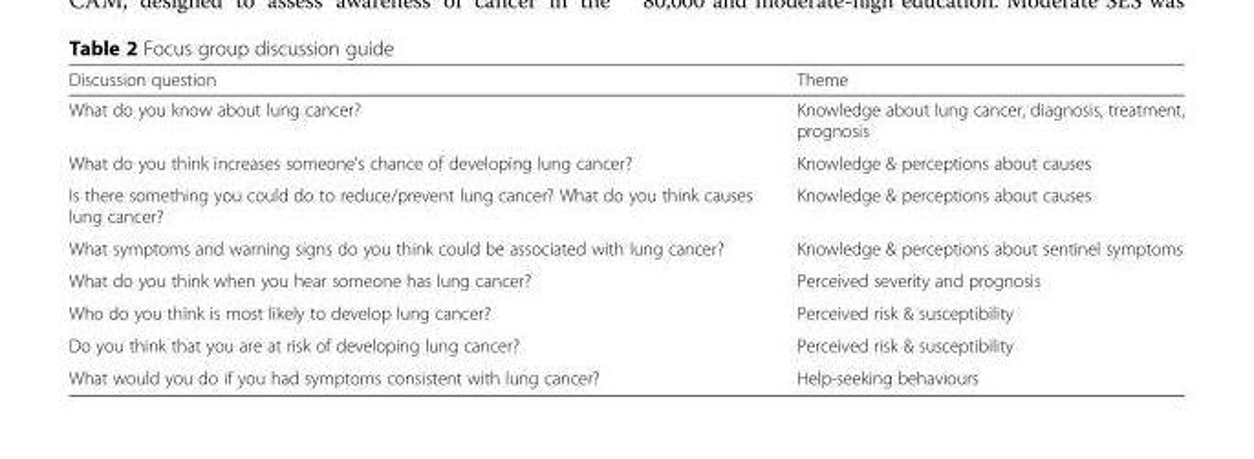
<table><thead><tr><td>Discussion question</td><td>Theme</td></tr></thead><tbody><tr><td>What do you know about lung cancer?</td><td>Knowledge about lung cancer, diagnosis, treatment, prognosis</td></tr><tr><td>What do you think increases someone’s chance of developing lung cancer?</td><td>Knowledge &amp; perceptions about causes</td></tr><tr><td>Is there something you could do to reduce/prevent lung cancer? What do you think causes lung cancer?</td><td>Knowledge &amp; perceptions about causes</td></tr><tr><td>What symptoms and warning signs do you think could be associated with lung cancer?</td><td>Knowledge &amp; perceptions about sentinel symptoms</td></tr><tr><td>What do you think when you hear someone has lung cancer?</td><td>Perceived severity and prognosis</td></tr><tr><td>Who do you think is most likely to develop lung cancer?</td><td>Perceived risk &amp; susceptibility</td></tr><tr><td>Do you think that you are at risk of developing lung cancer?</td><td>Perceived risk &amp; susceptibility</td></tr><tr><td>What would you do if you had symptoms consistent with lung cancer?</td><td>Help-seeking behaviours</td></tr></tbody></table>